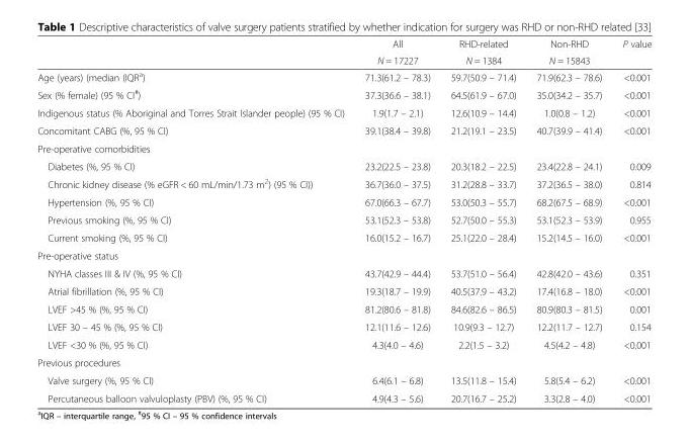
<table><thead><tr><td rowspan="2"></td><td rowspan="2">All N = 17227</td><td rowspan="2">RHD-related N = 1384</td><td rowspan="2">Non-RHD N = 15843</td><td rowspan="2">P value</td></tr><tr></tr></thead><tbody><tr><td>Age (years) (median (IQR<sup>a</sup>)</td><td>71.3(61.2 – 78.3)</td><td>59.7(50.9 – 71.4)</td><td>71.9(62.3 – 78.6)</td><td>&lt;0.001</td></tr><tr><td>Sex (% female) (95 % CI<sup>#</sup>)</td><td>37.3(36.6 – 38.1)</td><td>64.5(61.9 – 67.0)</td><td>35.0(34.2 – 35.7)</td><td>&lt;0.001</td></tr><tr><td>Indigenous status (% Aboriginal and Torres Strait Islander people) (95 % CI)</td><td>1.9(1.7 – 2.1)</td><td>12.6(10.9 – 14.4)</td><td>1.0(0.8 – 1.2)</td><td>&lt;0.001</td></tr><tr><td>Concomitant CABG (%, 95 % CI)</td><td>39.1(38.4 – 39.8)</td><td>21.2(19.1 – 23.5)</td><td>40.7(39.9 – 41.4)</td><td>&lt;0.001</td></tr><tr><td colspan="5">Pre-operative comorbidities</td></tr><tr><td>Diabetes (%, 95 % CI)</td><td>23.2(22.5 – 23.8)</td><td>20.3(18.2 – 22.5)</td><td>23.4(22.8 – 24.1)</td><td>0.009</td></tr><tr><td>Chronic kidney disease (% eGFR &lt; 60 mL/min/1.73 m<sup>2</sup>) (95 % CI))</td><td>36.7(36.0 – 37.5)</td><td>31.2(28.8 – 33.7)</td><td>37.2(36.5 – 38.0)</td><td>0.814</td></tr><tr><td>Hypertension (%, 95 % CI)</td><td>67.0(66.3 – 67.7)</td><td>53.0(50.3 – 55.7)</td><td>68.2(67.5 – 68.9)</td><td>&lt;0.001</td></tr><tr><td>Previous smoking (%, 95 % CI)</td><td>53.1(52.3 – 53.8)</td><td>52.7(50.0 – 55.3)</td><td>53.1(52.3 – 53.9)</td><td>0.955</td></tr><tr><td>Current smoking (%, 95 % CI)</td><td>16.0(15.2 – 16.7)</td><td>25.1(22.0 – 28.4)</td><td>15.2(14.5 – 16.0)</td><td>&lt;0.001</td></tr><tr><td colspan="5">Pre-operative status</td></tr><tr><td>NYHA classes III &amp; IV (%, 95 % CI)</td><td>43.7(42.9 – 44.4)</td><td>53.7(51.0 – 56.4)</td><td>42.8(42.0 – 43.6)</td><td>0.351</td></tr><tr><td>Atrial fibrillation (%, 95 % CI)</td><td>19.3(18.7 – 19.9)</td><td>40.5(37.9 – 43.2)</td><td>17.4(16.8 – 18.0)</td><td>&lt;0.001</td></tr><tr><td>LVEF &gt;45 % (%, 95 % CI)</td><td>81.2(80.6 – 81.8)</td><td>84.6(82.6 – 86.5)</td><td>80.9(80.3 – 81.5)</td><td>0.001</td></tr><tr><td>LVEF 30 – 45 % (%, 95 % CI)</td><td>12.1(11.6 – 12.6)</td><td>10.9(9.3 – 12.7)</td><td>12.2(11.7 – 12.7)</td><td>0.154</td></tr><tr><td>LVEF &lt;30 % (%, 95 % CI)</td><td>4.3(4.0 – 4.6)</td><td>2.2(1.5 – 3.2)</td><td>4.5(4.2 – 4.8)</td><td>&lt;0.001</td></tr><tr><td colspan="5">Previous procedures</td></tr><tr><td>Valve surgery (%, 95 % CI)</td><td>6.4(6.1 – 6.8)</td><td>13.5(11.8 – 15.4)</td><td>5.8(5.4 – 6.2)</td><td>&lt;0.001</td></tr><tr><td>Percutaneous balloon valvuloplasty (PBV) (%, 95 % CI)</td><td>4.9(4.3 – 5.6)</td><td>20.7(16.7 – 25.2)</td><td>3.3(2.8 – 4.0)</td><td>&lt;0.001</td></tr></tbody></table>